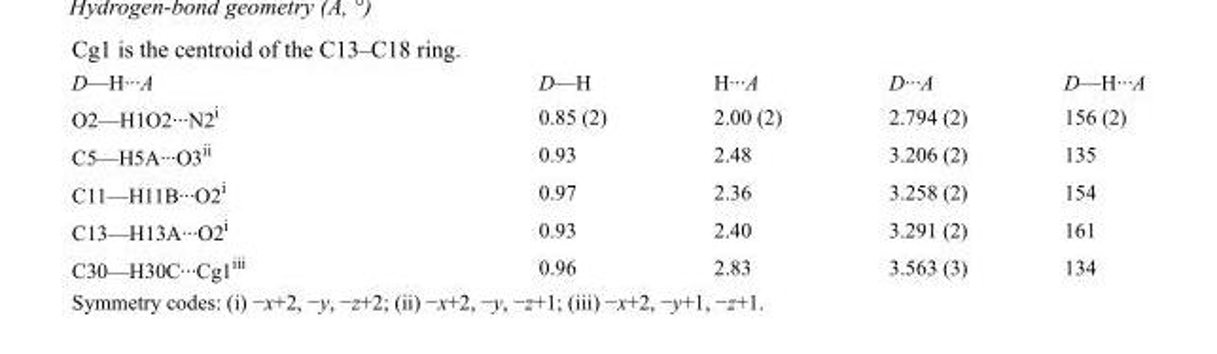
<table><tbody><tr><td>D—H···A</td><td>D—H</td><td>H···A</td><td>D···A</td><td>D—H···A</td></tr><tr><td>O2—H1O2···N2<sup>i</sup></td><td>0.85 (2)</td><td>2.00 (2)</td><td>2.794 (2)</td><td>156 (2)</td></tr><tr><td>C5—H5A···O3<sup>ii</sup></td><td>0.93</td><td>2.48</td><td>3.206 (2)</td><td>135</td></tr><tr><td>C11—H11B···O2<sup>i</sup></td><td>0.97</td><td>2.36</td><td>3.258 (2)</td><td>154</td></tr><tr><td>C13—H13A···O2<sup>i</sup></td><td>0.93</td><td>2.40</td><td>3.291 (2)</td><td>161</td></tr><tr><td>C30—H30C···Cg1<sup>iii</sup></td><td>0.96</td><td>2.83</td><td>3.563 (3)</td><td>134</td></tr></tbody></table>